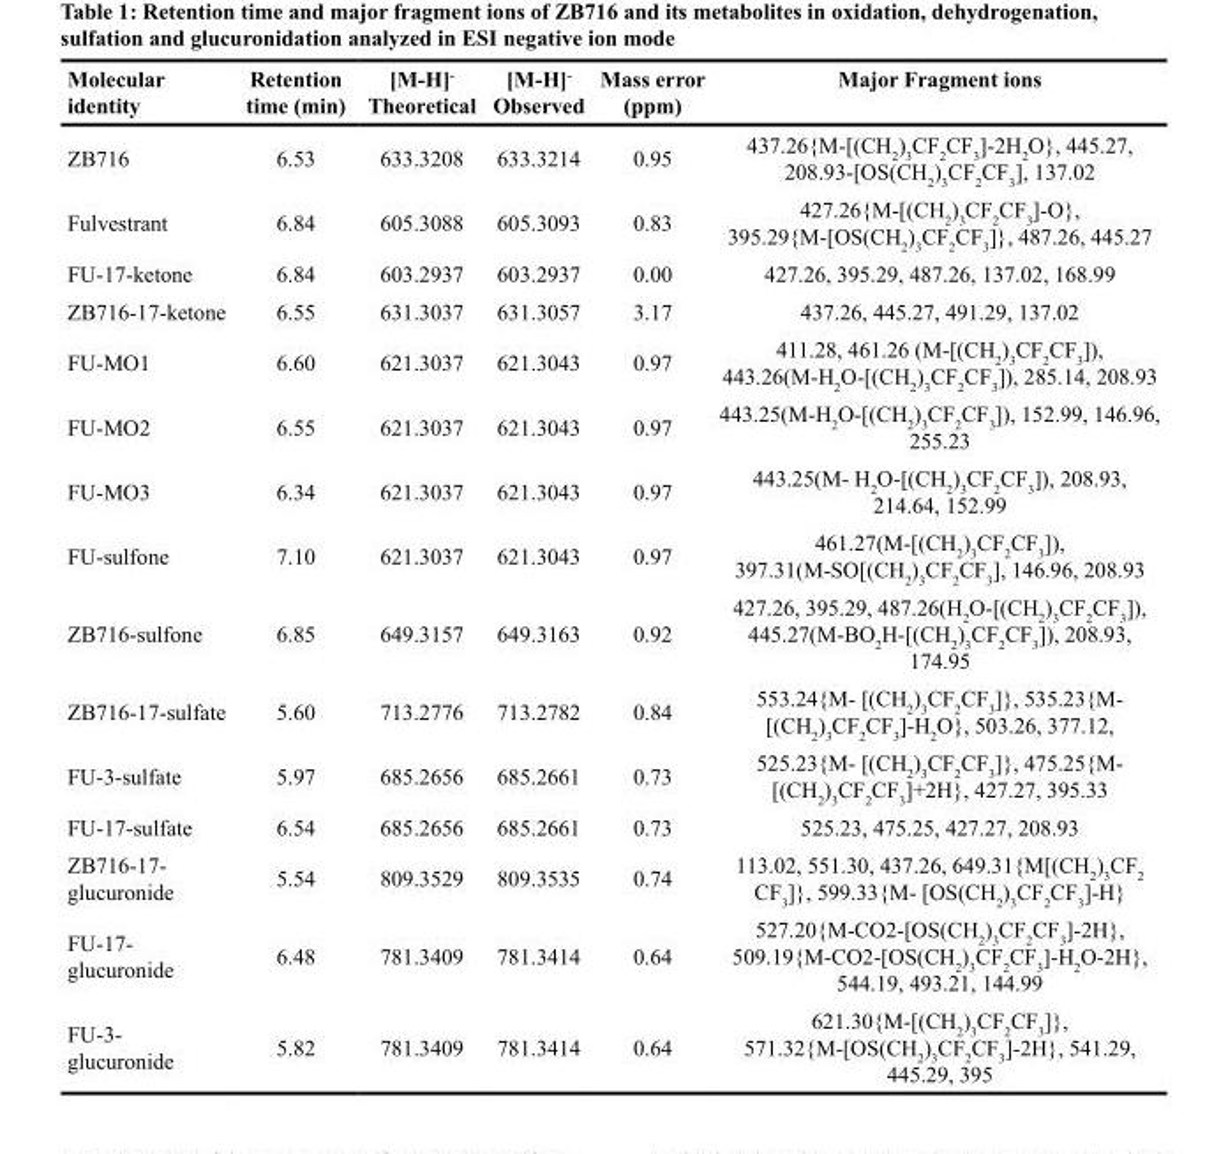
<table><thead><tr><td>Molecular identity</td><td>Retention time (min)</td><td>[M-H]<sup>-</sup> Theoretical</td><td>[M-H]<sup>-</sup> Observed</td><td>Mass error (ppm)</td><td>Major Fragment ions</td></tr></thead><tbody><tr><td>ZB716</td><td>6.53</td><td>633.3208</td><td>633.3214</td><td>0.95</td><td>437.26{M-[(CH<sub>2</sub>)<sub>3</sub>CF<sub>2</sub>CF<sub>3</sub>]-2H<sub>2</sub>O}, 445.27, 208.93-[OS(CH<sub>2</sub>)<sub>3</sub>CF<sub>2</sub>CF<sub>3</sub>], 137.02</td></tr><tr><td>Fulvestrant</td><td>6.84</td><td>605.3088</td><td>605.3093</td><td>0.83</td><td>427.26{M-[(CH<sub>2</sub>)<sub>3</sub>CF<sub>2</sub>CF<sub>3</sub>]-O}, 395.29{M-[OS(CH<sub>2</sub>)<sub>3</sub>CF<sub>2</sub>CF<sub>3</sub>]}, 487.26, 445.27</td></tr><tr><td>FU-17-ketone</td><td>6.84</td><td>603.2937</td><td>603.2937</td><td>0.00</td><td>427.26, 395.29, 487.26, 137.02, 168.99</td></tr><tr><td>ZB716-17-ketone</td><td>6.55</td><td>631.3037</td><td>631.3057</td><td>3.17</td><td>437.26, 445.27, 491.29, 137.02</td></tr><tr><td>FU-MO1</td><td>6.60</td><td>621.3037</td><td>621.3043</td><td>0.97</td><td>411.28, 461.26 (M-[(CH<sub>2</sub>)<sub>3</sub>CF<sub>2</sub>CF<sub>3</sub>]), 443.26(M-H<sub>2</sub>O-[(CH<sub>2</sub>)<sub>3</sub>CF<sub>2</sub>CF<sub>3</sub>]), 285.14, 208.93</td></tr><tr><td>FU-MO2</td><td>6.55</td><td>621.3037</td><td>621.3043</td><td>0.97</td><td>443.25(M-H<sub>2</sub>O-[(CH<sub>2</sub>)<sub>3</sub>CF<sub>2</sub>CF<sub>3</sub>]), 152.99, 146.96, 255.23</td></tr><tr><td>FU-MO3</td><td>6.34</td><td>621.3037</td><td>621.3043</td><td>0.97</td><td>443.25(M- H<sub>2</sub>O-[(CH<sub>2</sub>)<sub>3</sub>CF<sub>2</sub>CF<sub>3</sub>]), 208.93, 214.64, 152.99</td></tr><tr><td>FU-sulfone</td><td>7.10</td><td>621.3037</td><td>621.3043</td><td>0.97</td><td>461.27(M-[(CH<sub>2</sub>)<sub>3</sub>CF<sub>2</sub>CF<sub>3</sub>]), 397.31(M-SO[(CH<sub>2</sub>)<sub>3</sub>CF<sub>2</sub>CF<sub>3</sub>], 146.96, 208.93</td></tr><tr><td>ZB716-sulfone</td><td>6.85</td><td>649.3157</td><td>649.3163</td><td>0.92</td><td>427.26, 395.29, 487.26(H<sub>2</sub>O-[(CH<sub>2</sub>)<sub>3</sub>CF<sub>2</sub>CF<sub>3</sub>]), 445.27(M-BO<sub>2</sub>H-[(CH<sub>2</sub>)<sub>3</sub>CF<sub>2</sub>CF<sub>3</sub>]), 208.93, 174.95</td></tr><tr><td>ZB716-17-sulfate</td><td>5.60</td><td>713.2776</td><td>713.2782</td><td>0.84</td><td>553.24{M- [(CH<sub>2</sub>)<sub>3</sub>CF<sub>2</sub>CF<sub>3</sub>]}, 535.23{M- [(CH<sub>2</sub>)<sub>3</sub>CF<sub>2</sub>CF<sub>3</sub>]-H<sub>2</sub>O}, 503.26, 377.12,</td></tr><tr><td>FU-3-sulfate</td><td>5.97</td><td>685.2656</td><td>685.2661</td><td>0.73</td><td>525.23{M- [(CH<sub>2</sub>)<sub>3</sub>CF<sub>2</sub>CF<sub>3</sub>]}, 475.25{M- [(CH<sub>2</sub>)<sub>3</sub>CF<sub>2</sub>CF<sub>3</sub>]+2H}, 427.27, 395.33</td></tr><tr><td>FU-17-sulfate</td><td>6.54</td><td>685.2656</td><td>685.2661</td><td>0.73</td><td>525.23, 475.25, 427.27, 208.93</td></tr><tr><td>ZB716-17- glucuronide</td><td>5.54</td><td>809.3529</td><td>809.3535</td><td>0.74</td><td>113.02, 551.30, 437.26, 649.31{M[(CH<sub>2</sub>)<sub>3</sub>CF<sub>2</sub> CF<sub>3</sub>]}, 599.33{M- [OS(CH<sub>2</sub>)<sub>3</sub>CF<sub>2</sub>CF<sub>3</sub>]-H}</td></tr><tr><td>FU-17- glucuronide</td><td>6.48</td><td>781.3409</td><td>781.3414</td><td>0.64</td><td>527.20{M-CO2-[OS(CH<sub>2</sub>)<sub>3</sub>CF<sub>2</sub>CF<sub>3</sub>]-2H}, 509.19{M-CO2-[OS(CH<sub>2</sub>)<sub>3</sub>CF<sub>2</sub>CF<sub>3</sub>]-H<sub>2</sub>O-2H}, 544.19, 493.21, 144.99</td></tr><tr><td>FU-3- glucuronide</td><td>5.82</td><td>781.3409</td><td>781.3414</td><td>0.64</td><td>621.30{M-[(CH<sub>2</sub>)<sub>3</sub>CF<sub>2</sub>CF<sub>3</sub>]}, 571.32{M-[OS(CH<sub>2</sub>)<sub>3</sub>CF<sub>2</sub>CF<sub>3</sub>]-2H}, 541.29, 445.29, 395</td></tr></tbody></table>